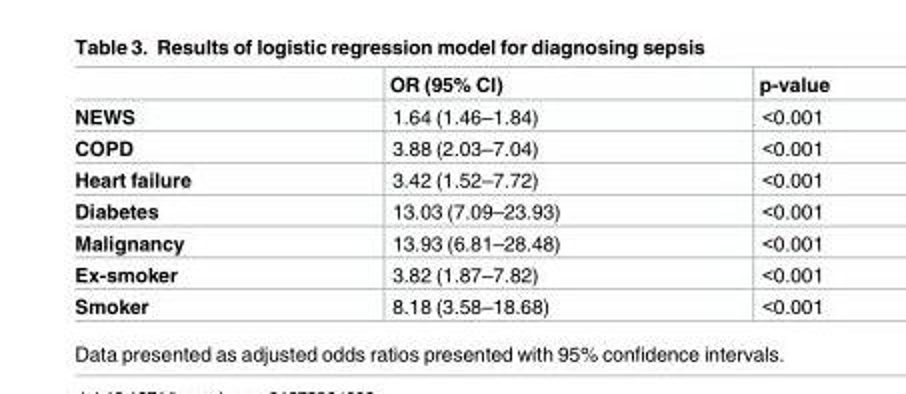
<table><thead><tr><td></td><td>OR (95% CI)</td><td>p-value</td></tr></thead><tbody><tr><td>NEWS</td><td>1.64 (1.46–1.84)</td><td>&lt;0.001</td></tr><tr><td>COPD</td><td>3.88 (2.03–7.04)</td><td>&lt;0.001</td></tr><tr><td>Heart failure</td><td>3.42 (1.52–7.72)</td><td>&lt;0.001</td></tr><tr><td>Diabetes</td><td>13.03 (7.09–23.93)</td><td>&lt;0.001</td></tr><tr><td>Malignancy</td><td>13.93 (6.81–28.48)</td><td>&lt;0.001</td></tr><tr><td>Ex-smoker</td><td>3.82 (1.87–7.82)</td><td>&lt;0.001</td></tr><tr><td>Smoker</td><td>8.18 (3.58–18.68)</td><td>&lt;0.001</td></tr></tbody></table>